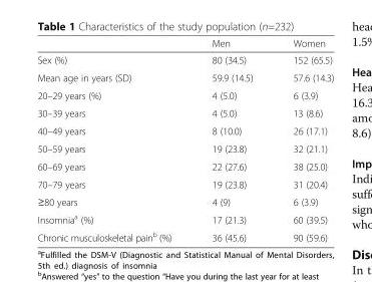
<table><thead><tr><td></td><td>Men</td><td>Women</td></tr></thead><tbody><tr><td>Sex (%)</td><td>80 (34.5)</td><td>152 (65.5)</td></tr><tr><td>Mean age in years (SD)</td><td>59.9 (14.5)</td><td>57.6 (14.3)</td></tr><tr><td>20–29 years (%)</td><td>4 (5.0)</td><td>6 (3.9)</td></tr><tr><td>30–39 years</td><td>4 (5.0)</td><td>13 (8.6)</td></tr><tr><td>40–49 years</td><td>8 (10.0)</td><td>26 (17.1)</td></tr><tr><td>50–59 years</td><td>19 (23.8)</td><td>32 (21.1)</td></tr><tr><td>60–69 years</td><td>22 (27.6)</td><td>38 (25.0)</td></tr><tr><td>70–79 years</td><td>19 (23.8)</td><td>31 (20.4)</td></tr><tr><td>≥80 years</td><td>4 (9)</td><td>6 (3.9)</td></tr><tr><td>Insomnia<sup>a</sup> (%)</td><td>17 (21.3)</td><td>60 (39.5)</td></tr><tr><td>Chronic musculoskeletal pain<sup>b</sup> (%)</td><td>36 (45.6)</td><td>90 (59.6)</td></tr></tbody></table>